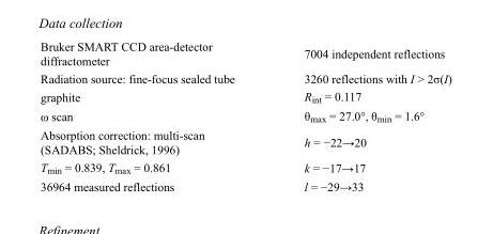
<table><tbody><tr><td>Bruker SMART CCD area-detector diffractometer</td><td>7004 independent reflections</td></tr><tr><td>Radiation source: fine-focus sealed tube</td><td>3260 reflections with I &gt; 2σ(I)</td></tr><tr><td>graphite</td><td>R<sub>int</sub> = 0.117</td></tr><tr><td>ω scan</td><td>θ<sub>max</sub> = 27.0°, θ<sub>min</sub> = 1.6°</td></tr><tr><td>Absorption correction: multi-scan (SADABS; Sheldrick, 1996)</td><td>h = −22→20</td></tr><tr><td>T<sub>min</sub> = 0.839, T<sub>max</sub> = 0.861</td><td>k = −17→17</td></tr><tr><td>36964 measured reflections</td><td>l = −29→33</td></tr></tbody></table>